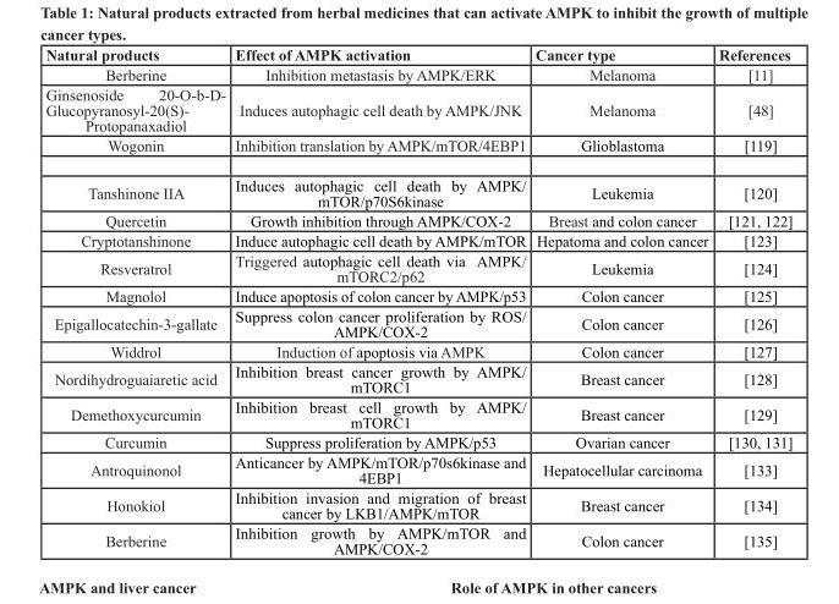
<table><thead><tr><td>Natural products</td><td>Effect of AMPK activation</td><td>Cancer type</td><td>References</td></tr></thead><tbody><tr><td>Berberine</td><td>Inhibition metastasis by AMPK/ERK</td><td>Melanoma</td><td>[11]</td></tr><tr><td>Ginsenoside 20-O-b-D- Glucopyranosyl-20(S)- Protopanaxadiol</td><td>Induces autophagic cell death by AMPK/JNK</td><td>Melanoma</td><td>[48]</td></tr><tr><td>Wogonin</td><td>Inhibition translation by AMPK/mTOR/4EBP1</td><td>Glioblastoma</td><td>[119]</td></tr><tr><td>Tanshinone IIA</td><td>Induces autophagic cell death by AMPK/ mTOR/p70S6kinase</td><td>Leukemia</td><td>[120]</td></tr><tr><td>Quercetin</td><td>Growth inhibition through AMPK/COX-2</td><td>Breast and colon cancer</td><td>[121, 122]</td></tr><tr><td>Cryptotanshinone</td><td>Induce autophagic cell death by AMPK/mTOR</td><td>Hepatoma and colon cancer</td><td>[123]</td></tr><tr><td>Resveratrol</td><td>Triggered autophagic cell death via AMPK/ mTORC2/p62</td><td>Leukemia</td><td>[124]</td></tr><tr><td>Magnolol</td><td>Induce apoptosis of colon cancer by AMPK/p53</td><td>Colon cancer</td><td>[125]</td></tr><tr><td>Epigallocatechin-3-gallate</td><td>Suppress colon cancer proliferation by ROS/ AMPK/COX-2</td><td>Colon cancer</td><td>[126]</td></tr><tr><td>Widdrol</td><td>Induction of apoptosis via AMPK</td><td>Colon cancer</td><td>[127]</td></tr><tr><td>Nordihydroguaiaretic acid</td><td>Inhibition breast cancer growth by AMPK/ mTORC1</td><td>Breast cancer</td><td>[128]</td></tr><tr><td>Demethoxycurcumin</td><td>Inhibition breast cell growth by AMPK/ mTORC1</td><td>Breast cancer</td><td>[129]</td></tr><tr><td>Curcumin</td><td>Suppress proliferation by AMPK/p53</td><td>Ovarian cancer</td><td>[130, 131]</td></tr><tr><td>Antroquinonol</td><td>Anticancer by AMPK/mTOR/p70s6kinase and 4EBP1</td><td>Hepatocellular carcinoma</td><td>[133]</td></tr><tr><td>Honokiol</td><td>Inhibition invasion and migration of breast cancer by LKB1/AMPK/mTOR</td><td>Breast cancer</td><td>[134]</td></tr><tr><td>Berberine</td><td>Inhibition growth by AMPK/mTOR and AMPK/COX-2</td><td>Colon cancer</td><td>[135]</td></tr></tbody></table>